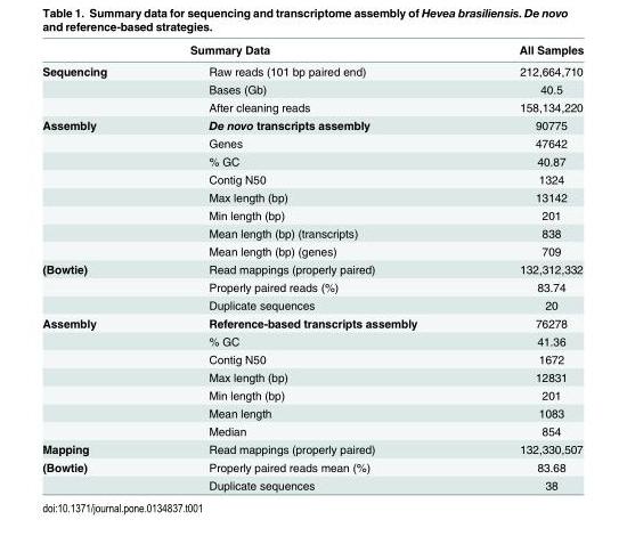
<table><thead><tr><td colspan="2">Summary Data</td><td rowspan="2">All Samples 212,664,710</td></tr><tr><td>Sequencing</td><td>Raw reads (101 bp paired end)</td></tr></thead><tbody><tr><td></td><td>Bases (Gb)</td><td>40.5</td></tr><tr><td></td><td>After cleaning reads</td><td>158,134,220</td></tr><tr><td rowspan="8">Assembly</td><td>De novo transcripts assembly</td><td>90775</td></tr><tr><td>Genes</td><td>47642</td></tr><tr><td>% GC</td><td>40.87</td></tr><tr><td>Contig N50</td><td>1324</td></tr><tr><td>Max length (bp)</td><td>13142</td></tr><tr><td>Min length (bp)</td><td>201</td></tr><tr><td>Mean length (bp) (transcripts)</td><td>838</td></tr><tr><td>Mean length (bp) (genes)</td><td>709</td></tr><tr><td rowspan="3">(Bowtie)</td><td>Read mappings (properly paired)</td><td>132,312,332</td></tr><tr><td>Properly paired reads (%)</td><td>83.74</td></tr><tr><td>Duplicate sequences</td><td>20</td></tr><tr><td rowspan="7">Assembly</td><td>Reference-based transcripts assembly</td><td>76278</td></tr><tr><td>% GC</td><td>41.36</td></tr><tr><td>Contig N50</td><td>1672</td></tr><tr><td>Max length (bp)</td><td>12831</td></tr><tr><td>Min length (bp)</td><td>201</td></tr><tr><td>Mean length</td><td>1083</td></tr><tr><td>Median</td><td>854</td></tr><tr><td>Mapping</td><td>Read mappings (properly paired)</td><td>132,330,507</td></tr><tr><td rowspan="2">(Bowtie)</td><td>Properly paired reads mean (%)</td><td>83.68</td></tr><tr><td>Duplicate sequences</td><td>38</td></tr></tbody></table>